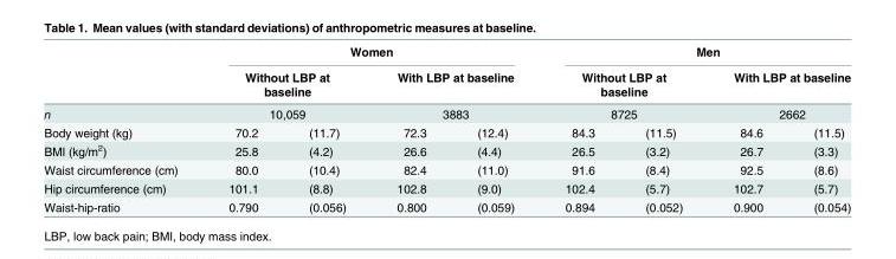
<table><thead><tr><td rowspan="4">n Body weight (kg)</td><td colspan="4">Women</td><td colspan="4">Men</td></tr><tr><td rowspan="2" colspan="2">Without LBP at baseline 10,059</td><td rowspan="2" colspan="2">With LBP at baseline 3883</td><td rowspan="2" colspan="2">Without LBP at baseline 8725</td><td rowspan="2" colspan="2">With LBP at baseline 2662</td></tr><tr></tr><tr><td>70.2</td><td>(11.7)</td><td>72.3</td><td>(12.4)</td><td>84.3</td><td>(11.5)</td><td>84.6</td><td>(11.5)</td></tr></thead><tbody><tr><td>BMI (kg/m<sup>2</sup>)</td><td>25.8</td><td>(4.2)</td><td>26.6</td><td>(4.4)</td><td>26.5</td><td>(3.2)</td><td>26.7</td><td>(3.3)</td></tr><tr><td>Waist circumference (cm)</td><td>80.0</td><td>(10.4)</td><td>82.4</td><td>(11.0)</td><td>91.6</td><td>(8.4)</td><td>92.5</td><td>(8.6)</td></tr><tr><td>Hip circumference (cm)</td><td>101.1</td><td>(8.8)</td><td>102.8</td><td>(9.0)</td><td>102.4</td><td>(5.7)</td><td>102.7</td><td>(5.7)</td></tr><tr><td>Waist-hip-ratio</td><td>0.790</td><td>(0.056)</td><td>0.800</td><td>(0.059)</td><td>0.894</td><td>(0.052)</td><td>0.900</td><td>(0.054)</td></tr></tbody></table>